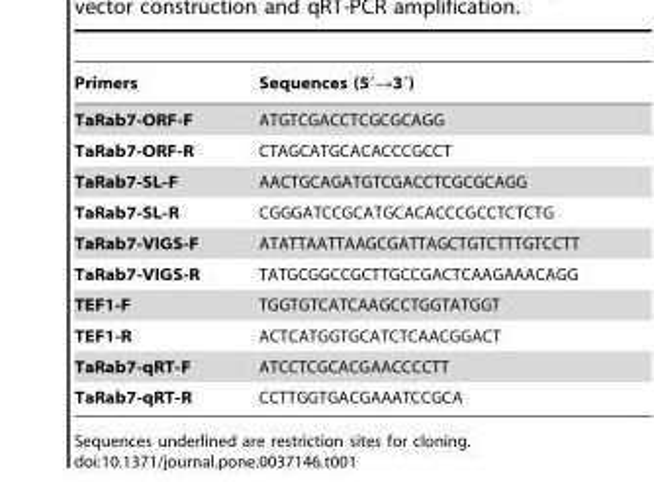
<table><thead><tr><td>Primers</td><td>Sequences (5′→3′)</td></tr></thead><tbody><tr><td>TaRab7-ORF-F</td><td>ATGTCGACCTCGCGCAGG</td></tr><tr><td>TaRab7-ORF-R</td><td>CTAGCATGCACACCCGCCT</td></tr><tr><td>TaRab7-SL-F</td><td>AACTGCAGATGTCGACCTCGCGCAGG</td></tr><tr><td>TaRab7-SL-R</td><td>CGGGATCCGCATGCACACCCGCCTCTCTG</td></tr><tr><td>TaRab7-VIGS-F</td><td>ATATTAATTAAGCGATTAGCTGTCTTTGTCCTT</td></tr><tr><td>TaRab7-VIGS-R</td><td>TATGCGGCCGCTTGCCGACTCAAGAAACAGG</td></tr><tr><td>TEF1-F</td><td>TGGTGTCATCAAGCCTGGTATGGT</td></tr><tr><td>TEF1-R</td><td>ACTCATGGTGCATCTCAACGGACT</td></tr><tr><td>TaRab7-qRT-F</td><td>ATCCTCGCACGAACCCCTT</td></tr><tr><td>TaRab7-qRT-R</td><td>CCTTGGTGACGAAATCCGCA</td></tr></tbody></table>